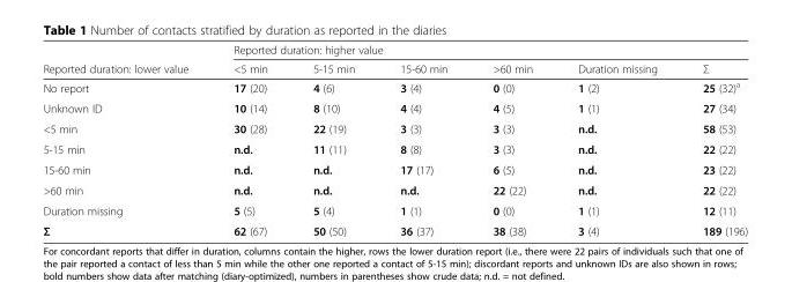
<table><thead><tr><td rowspan="2">Reported duration: lower value</td><td colspan="6">Reported duration: higher value</td></tr><tr><td>&lt;5 min</td><td>5-15 min</td><td>15-60 min</td><td>&gt;60 min</td><td>Duration missing</td><td>Σ</td></tr></thead><tbody><tr><td>No report</td><td>17 (20)</td><td>4 (6)</td><td>3 (4)</td><td>0 (0)</td><td>1 (2)</td><td>25 (32)<sup>a</sup></td></tr><tr><td>Unknown ID</td><td>10 (14)</td><td>8 (10)</td><td>4 (4)</td><td>4 (5)</td><td>1 (1)</td><td>27 (34)</td></tr><tr><td>&lt;5 min</td><td>30 (28)</td><td>22 (19)</td><td>3 (3)</td><td>3 (3)</td><td>n.d.</td><td>58 (53)</td></tr><tr><td>5-15 min</td><td>n.d.</td><td>11 (11)</td><td>8 (8)</td><td>3 (3)</td><td>n.d.</td><td>22 (22)</td></tr><tr><td>15-60 min</td><td>n.d.</td><td>n.d.</td><td>17 (17)</td><td>6 (5)</td><td>n.d.</td><td>23 (22)</td></tr><tr><td>&gt;60 min</td><td>n.d.</td><td>n.d.</td><td>n.d.</td><td>22 (22)</td><td>n.d.</td><td>22 (22)</td></tr><tr><td>Duration missing</td><td>5 (5)</td><td>5 (4)</td><td>1 (1)</td><td>0 (0)</td><td>1 (1)</td><td>12 (11)</td></tr><tr><td>Σ</td><td>62 (67)</td><td>50 (50)</td><td>36 (37)</td><td>38 (38)</td><td>3 (4)</td><td>189 (196)</td></tr></tbody></table>